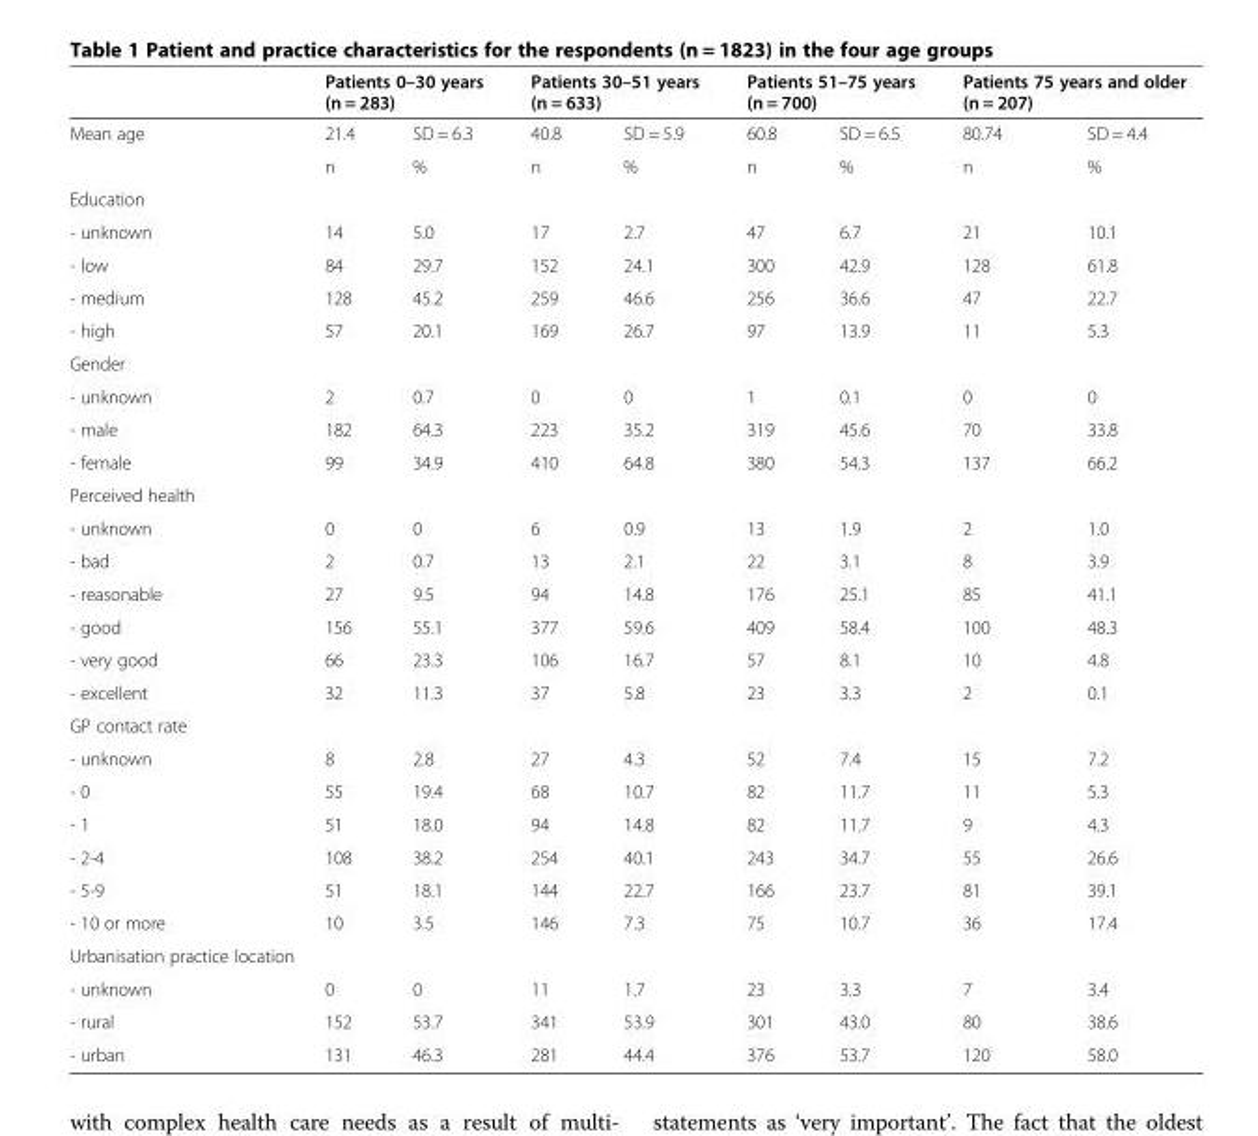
<table><thead><tr><td rowspan="2">Mean age</td><td colspan="2">Patients 0–30 years (n = 283)</td><td colspan="2">Patients 30–51 years (n = 633)</td><td colspan="2">Patients 51–75 years (n = 700)</td><td colspan="2">Patients 75 years and older (n = 207)</td></tr><tr><td>21.4</td><td>SD = 6.3</td><td>40.8</td><td>SD = 5.9</td><td>60.8</td><td>SD = 6.5</td><td>80.74</td><td>SD = 4.4</td></tr></thead><tbody><tr><td></td><td>n</td><td>%</td><td>n</td><td>%</td><td>n</td><td>%</td><td>n</td><td>%</td></tr><tr><td colspan="9">Education</td></tr><tr><td>- unknown</td><td>14</td><td>5.0</td><td>17</td><td>2.7</td><td>47</td><td>6.7</td><td>21</td><td>10.1</td></tr><tr><td>- low</td><td>84</td><td>29.7</td><td>152</td><td>24.1</td><td>300</td><td>42.9</td><td>128</td><td>61.8</td></tr><tr><td>- medium</td><td>128</td><td>45.2</td><td>259</td><td>46.6</td><td>256</td><td>36.6</td><td>47</td><td>22.7</td></tr><tr><td>- high</td><td>57</td><td>20.1</td><td>169</td><td>26.7</td><td>97</td><td>13.9</td><td>11</td><td>5.3</td></tr><tr><td colspan="9">Gender</td></tr><tr><td>- unknown</td><td>2</td><td>0.7</td><td>0</td><td>0</td><td>1</td><td>0.1</td><td>0</td><td>0</td></tr><tr><td>- male</td><td>182</td><td>64.3</td><td>223</td><td>35.2</td><td>319</td><td>45.6</td><td>70</td><td>33.8</td></tr><tr><td>- female</td><td>99</td><td>34.9</td><td>410</td><td>64.8</td><td>380</td><td>54.3</td><td>137</td><td>66.2</td></tr><tr><td colspan="9">Perceived health</td></tr><tr><td>- unknown</td><td>0</td><td>0</td><td>6</td><td>0.9</td><td>13</td><td>1.9</td><td>2</td><td>1.0</td></tr><tr><td>- bad</td><td>2</td><td>0.7</td><td>13</td><td>2.1</td><td>22</td><td>3.1</td><td>8</td><td>3.9</td></tr><tr><td>- reasonable</td><td>27</td><td>9.5</td><td>94</td><td>14.8</td><td>176</td><td>25.1</td><td>85</td><td>41.1</td></tr><tr><td>- good</td><td>156</td><td>55.1</td><td>377</td><td>59.6</td><td>409</td><td>58.4</td><td>100</td><td>48.3</td></tr><tr><td>- very good</td><td>66</td><td>23.3</td><td>106</td><td>16.7</td><td>57</td><td>8.1</td><td>10</td><td>4.8</td></tr><tr><td>- excellent</td><td>32</td><td>11.3</td><td>37</td><td>5.8</td><td>23</td><td>3.3</td><td>2</td><td>0.1</td></tr><tr><td colspan="9">GP contact rate</td></tr><tr><td>- unknown</td><td>8</td><td>2.8</td><td>27</td><td>4.3</td><td>52</td><td>7.4</td><td>15</td><td>7.2</td></tr><tr><td>- 0</td><td>55</td><td>19.4</td><td>68</td><td>10.7</td><td>82</td><td>11.7</td><td>11</td><td>5.3</td></tr><tr><td>- 1</td><td>51</td><td>18.0</td><td>94</td><td>14.8</td><td>82</td><td>11.7</td><td>9</td><td>4.3</td></tr><tr><td>- 2-4</td><td>108</td><td>38.2</td><td>254</td><td>40.1</td><td>243</td><td>34.7</td><td>55</td><td>26.6</td></tr><tr><td>- 5-9</td><td>51</td><td>18.1</td><td>144</td><td>22.7</td><td>166</td><td>23.7</td><td>81</td><td>39.1</td></tr><tr><td>- 10 or more</td><td>10</td><td>3.5</td><td>146</td><td>7.3</td><td>75</td><td>10.7</td><td>36</td><td>17.4</td></tr><tr><td colspan="9">Urbanisation practice location</td></tr><tr><td>- unknown</td><td>0</td><td>0</td><td>11</td><td>1.7</td><td>23</td><td>3.3</td><td>7</td><td>3.4</td></tr><tr><td>- rural</td><td>152</td><td>53.7</td><td>341</td><td>53.9</td><td>301</td><td>43.0</td><td>80</td><td>38.6</td></tr><tr><td>- urban</td><td>131</td><td>46.3</td><td>281</td><td>44.4</td><td>376</td><td>53.7</td><td>120</td><td>58.0</td></tr></tbody></table>